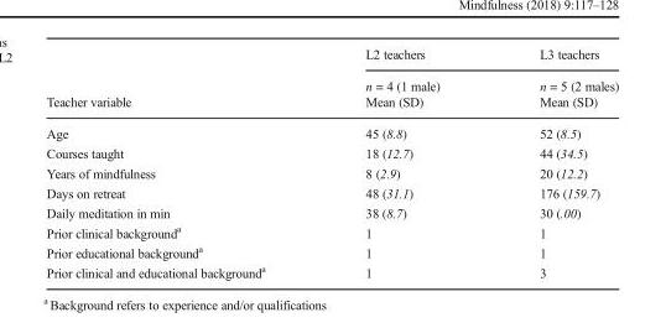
<table><thead><tr><td rowspan="3">Teacher variable</td><td rowspan="3">L2 teachers n = 4 (1 male) Mean (SD)</td><td rowspan="3">L3 teachers n = 5 (2 males) Mean (SD)</td></tr><tr></tr><tr></tr></thead><tbody><tr><td>Age</td><td>45 (8.8)</td><td>52 (8.5)</td></tr><tr><td>Courses taught</td><td>18 (12.7)</td><td>44 (34.5)</td></tr><tr><td>Years of mindfulness</td><td>8 (2.9)</td><td>20 (12.2)</td></tr><tr><td>Days on retreat</td><td>48 (31.1)</td><td>176 (159.7)</td></tr><tr><td>Daily meditation in min</td><td>38 (8.7)</td><td>30 (.00)</td></tr><tr><td>Prior clinical background<sup>a</sup></td><td>1</td><td>1</td></tr><tr><td>Prior educational background<sup>a</sup></td><td>1</td><td>1</td></tr><tr><td>Prior clinical and educational background<sup>a</sup></td><td>1</td><td>3</td></tr></tbody></table>